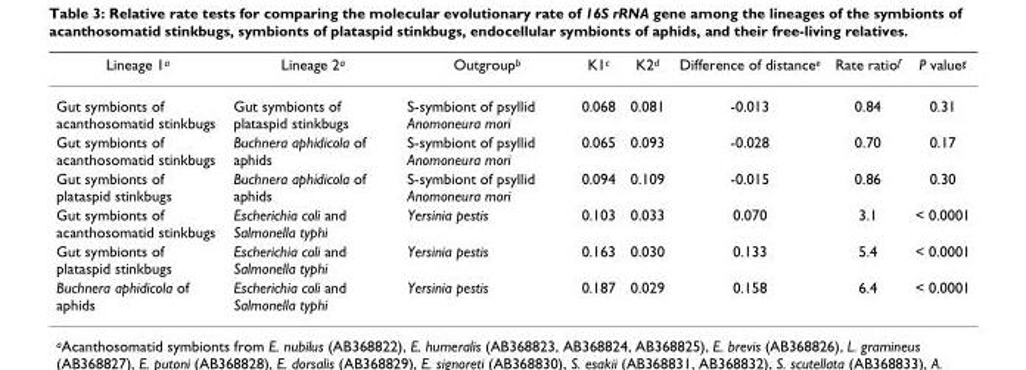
<table><thead><tr><td>Lineage 1<sup>a</sup></td><td>Lineage 2<sup>a</sup></td><td>Outgroup<sup>b</sup></td><td>K1<sup>c</sup></td><td>K2<sup>d</sup></td><td>Difference of distance<sup>e</sup></td><td>Rate ratio<sup>f</sup></td><td>P value<sup>g</sup></td></tr></thead><tbody><tr><td>Gut symbionts of acanthosomatid stinkbugs</td><td>Gut symbionts of plataspid stinkbugs</td><td>S-symbiont of psyllid Anomoneura mori</td><td>0.068</td><td>0.081</td><td>-0.013</td><td>0.84</td><td>0.31</td></tr><tr><td>Gut symbionts of acanthosomatid stinkbugs</td><td>Buchnera aphidicola of aphids</td><td>S-symbiont of psyllid Anomoneura mori</td><td>0.065</td><td>0.093</td><td>-0.028</td><td>0.70</td><td>0.17</td></tr><tr><td>Gut symbionts of plataspid stinkbugs</td><td>Buchnera aphidicola of aphids</td><td>S-symbiont of psyllid Anomoneura mori</td><td>0.094</td><td>0.109</td><td>-0.015</td><td>0.86</td><td>0.30</td></tr><tr><td>Gut symbionts of acanthosomatid stinkbugs</td><td>Escherichia coli and Salmonella typhi</td><td>Yersinia pestis</td><td>0.103</td><td>0.033</td><td>0.070</td><td>3.1</td><td>&lt; 0.0001</td></tr><tr><td>Gut symbionts of plataspid stinkbugs</td><td>Escherichia coli and Salmonella typhi</td><td>Yersinia pestis</td><td>0.163</td><td>0.030</td><td>0.133</td><td>5.4</td><td>&lt; 0.0001</td></tr><tr><td>Buchnera aphidicola of aphids</td><td>Escherichia coli and Salmonella typhi</td><td>Yersinia pestis</td><td>0.187</td><td>0.029</td><td>0.158</td><td>6.4</td><td>&lt; 0.0001</td></tr></tbody></table>